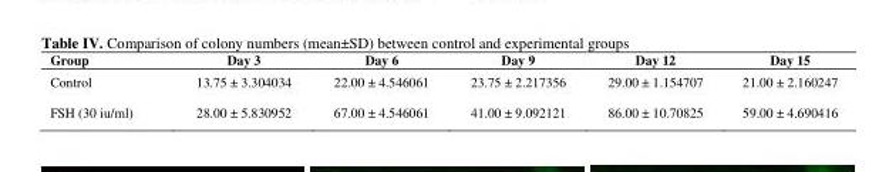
<table><thead><tr><td>Group</td><td>Day 3</td><td>Day 6</td><td>Day 9</td><td>Day 12</td><td>Day 15</td></tr></thead><tbody><tr><td>Control</td><td>13.75 ± 3.304034</td><td>22.00 ± 4.546061</td><td>23.75 ± 2.217356</td><td>29.00 ± 1.154707</td><td>21.00 ± 2.160247</td></tr><tr><td>FSH (30 iu/ml)</td><td>28.00 ± 5.830952</td><td>67.00 ± 4.546061</td><td>41.00 ± 9.092121</td><td>86.00 ± 10.70825</td><td>59.00 ± 4.690416</td></tr></tbody></table>